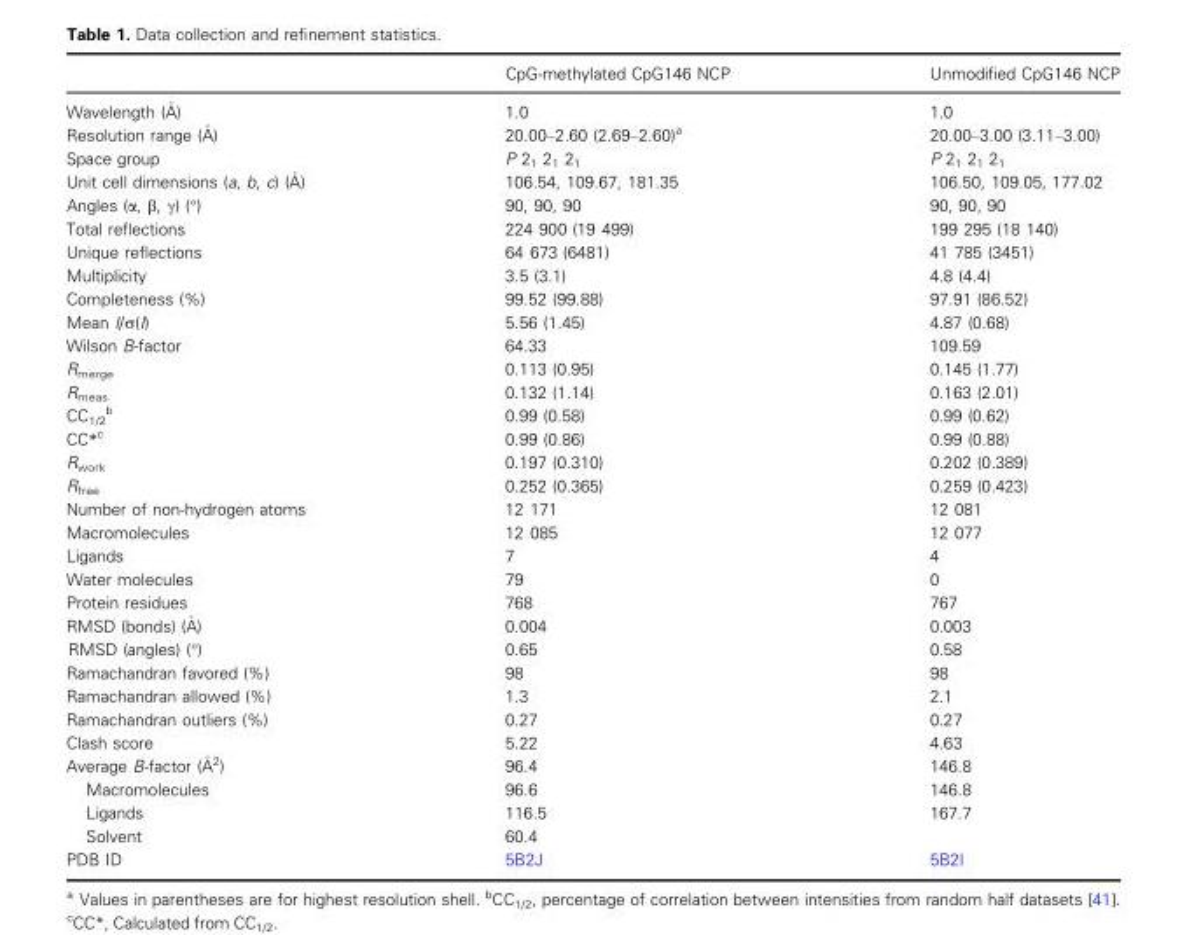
<table><thead><tr><td></td><td>CpG-methylated CpG146 NCP</td><td>Unmodified CpG146 NCP</td></tr></thead><tbody><tr><td>Wavelength (�A)</td><td>1.0</td><td>1.0</td></tr><tr><td>Resolution range (�A)</td><td>20.00–2.60 (2.69–2.60)<sup>a</sup></td><td>20.00–3.00 (3.11–3.00)</td></tr><tr><td>Space group</td><td>P 2<sub>1</sub> 2<sub>1</sub> 2<sub>1</sub></td><td>P 2<sub>1</sub> 2<sub>1</sub> 2<sub>1</sub></td></tr><tr><td>Unit cell dimensions (a, b, c) (�A)</td><td>106.54, 109.67, 181.35</td><td>106.50, 109.05, 177.02</td></tr><tr><td>Angles (α, β, γ) (°)</td><td>90, 90, 90</td><td>90, 90, 90</td></tr><tr><td>Total reflections</td><td>224 900 (19 499)</td><td>199 295 (18 140)</td></tr><tr><td>Unique reflections</td><td>64 673 (6481)</td><td>41 785 (3451)</td></tr><tr><td>Multiplicity</td><td>3.5 (3.1)</td><td>4.8 (4.4)</td></tr><tr><td>Completeness (%)</td><td>99.52 (99.88)</td><td>97.91 (86.52)</td></tr><tr><td>Mean I/σ(I)</td><td>5.56 (1.45)</td><td>4.87 (0.68)</td></tr><tr><td>Wilson B-factor</td><td>64.33</td><td>109.59</td></tr><tr><td>R<sub>merge</sub></td><td>0.113 (0.95)</td><td>0.145 (1.77)</td></tr><tr><td>R<sub>meas</sub></td><td>0.132 (1.14)</td><td>0.163 (2.01)</td></tr><tr><td>CC<sub>1/2</sub> b</td><td>0.99 (0.58)</td><td>0.99 (0.62)</td></tr><tr><td>CC*<sup>c</sup></td><td>0.99 (0.86)</td><td>0.99 (0.88)</td></tr><tr><td>R<sub>work</sub></td><td>0.197 (0.310)</td><td>0.202 (0.389)</td></tr><tr><td>R<sub>free</sub></td><td>0.252 (0.365)</td><td>0.259 (0.423)</td></tr><tr><td>Number of non-hydrogen atoms</td><td>12 171</td><td>12 081</td></tr><tr><td>Macromolecules</td><td>12 085</td><td>12 077</td></tr><tr><td>Ligands</td><td>7</td><td>4</td></tr><tr><td>Water molecules</td><td>79</td><td>0</td></tr><tr><td>Protein residues</td><td>768</td><td>767</td></tr><tr><td>RMSD (bonds) (�A)</td><td>0.004</td><td>0.003</td></tr><tr><td>RMSD (angles) (°)</td><td>0.65</td><td>0.58</td></tr><tr><td>Ramachandran favored (%)</td><td>98</td><td>98</td></tr><tr><td>Ramachandran allowed (%)</td><td>1.3</td><td>2.1</td></tr><tr><td>Ramachandran outliers (%)</td><td>0.27</td><td>0.27</td></tr><tr><td>Clash score</td><td>5.22</td><td>4.63</td></tr><tr><td>Average B-factor (�A2)</td><td>96.4</td><td>146.8</td></tr><tr><td>Macromolecules</td><td>96.6</td><td>146.8</td></tr><tr><td>Ligands</td><td>116.5</td><td>167.7</td></tr><tr><td>Solvent</td><td>60.4</td><td></td></tr><tr><td>PDB ID</td><td>5B2J</td><td>5B2I</td></tr></tbody></table>